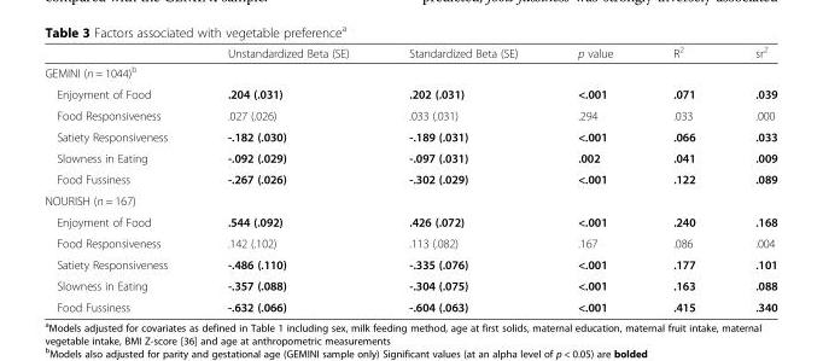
<table><thead><tr><td></td><td>Unstandardized Beta (SE)</td><td>Standardized Beta (SE)</td><td>p value</td><td>R<sup>2</sup></td><td>sr<sup>2</sup></td></tr></thead><tbody><tr><td colspan="6">GEMINI (n = 1044)<sup>b</sup></td></tr><tr><td>Enjoyment of Food</td><td>.204 (.031)</td><td>.202 (.031)</td><td>&lt;.001</td><td>.071</td><td>.039</td></tr><tr><td>Food Responsiveness</td><td>.027 (.026)</td><td>.033 (.031)</td><td>.294</td><td>.033</td><td>.000</td></tr><tr><td>Satiety Responsiveness</td><td>-.182 (.030)</td><td>-.189 (.031)</td><td>&lt;.001</td><td>.066</td><td>.033</td></tr><tr><td>Slowness in Eating</td><td>-.092 (.029)</td><td>-.097 (.031)</td><td>.002</td><td>.041</td><td>.009</td></tr><tr><td>Food Fussiness</td><td>-.267 (.026)</td><td>-.302 (.029)</td><td>&lt;.001</td><td>.122</td><td>.089</td></tr><tr><td colspan="6">NOURISH (n = 167)</td></tr><tr><td>Enjoyment of Food</td><td>.544 (.092)</td><td>.426 (.072)</td><td>&lt;.001</td><td>.240</td><td>.168</td></tr><tr><td>Food Responsiveness</td><td>.142 (.102)</td><td>.113 (.082)</td><td>.167</td><td>.086</td><td>.004</td></tr><tr><td>Satiety Responsiveness</td><td>-.486 (.110)</td><td>-.335 (.076)</td><td>&lt;.001</td><td>.177</td><td>.101</td></tr><tr><td>Slowness in Eating</td><td>-.357 (.088)</td><td>-.304 (.075)</td><td>&lt;.001</td><td>.163</td><td>.088</td></tr><tr><td>Food Fussiness</td><td>-.632 (.066)</td><td>-.604 (.063)</td><td>&lt;.001</td><td>.415</td><td>.340</td></tr></tbody></table>